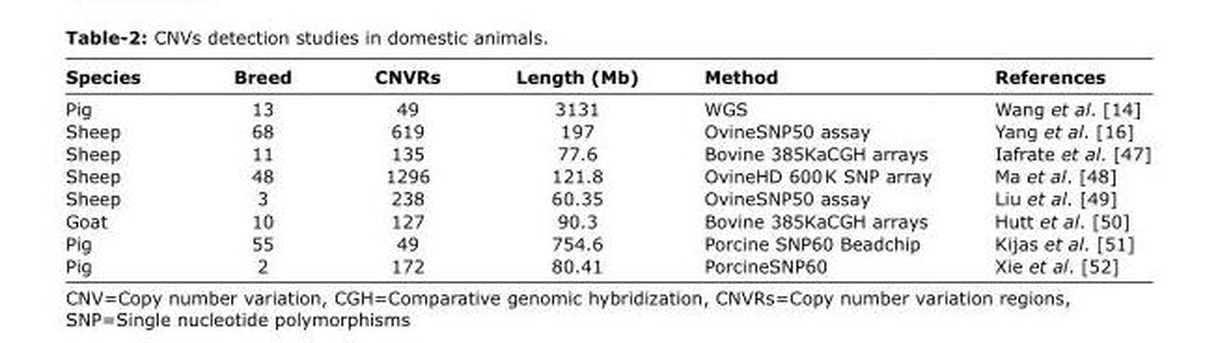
<table><thead><tr><td>Species</td><td>Breed</td><td>CNVRs</td><td>Length (Mb)</td><td>Method</td><td>References</td></tr></thead><tbody><tr><td>Pig</td><td>13</td><td>49</td><td>3131</td><td>WGS</td><td>Wang et al. [14]</td></tr><tr><td>Sheep</td><td>68</td><td>619</td><td>197</td><td>OvineSNP50 assay</td><td>Yang et al. [16]</td></tr><tr><td>Sheep</td><td>11</td><td>135</td><td>77.6</td><td>Bovine 385KaCGH arrays</td><td>Iafrate et al. [47]</td></tr><tr><td>Sheep</td><td>48</td><td>1296</td><td>121.8</td><td>OvineHD 600 K SNP array</td><td>Ma et al. [48]</td></tr><tr><td>Sheep</td><td>3</td><td>238</td><td>60.35</td><td>OvineSNP50 assay</td><td>Liu et al. [49]</td></tr><tr><td>Goat</td><td>10</td><td>127</td><td>90.3</td><td>Bovine 385KaCGH arrays</td><td>Hutt et al. [50]</td></tr><tr><td>Pig</td><td>55</td><td>49</td><td>754.6</td><td>Porcine SNP60 Beadchip</td><td>Kijas et al. [51]</td></tr><tr><td>Pig</td><td>2</td><td>172</td><td>80.41</td><td>PorcineSNP60</td><td>Xie et al. [52]</td></tr></tbody></table>